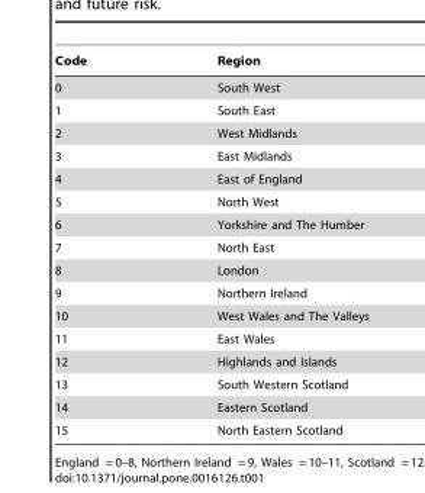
<table><thead><tr><td>Code</td><td>Region</td></tr></thead><tbody><tr><td>0</td><td>South West</td></tr><tr><td>1</td><td>South East</td></tr><tr><td>2</td><td>West Midlands</td></tr><tr><td>3</td><td>East Midlands</td></tr><tr><td>4</td><td>East of England</td></tr><tr><td>5</td><td>North West</td></tr><tr><td>6</td><td>Yorkshire and The Humber</td></tr><tr><td>7</td><td>North East</td></tr><tr><td>8</td><td>London</td></tr><tr><td>9</td><td>Northern Ireland</td></tr><tr><td>10</td><td>West Wales and The Valleys</td></tr><tr><td>11</td><td>East Wales</td></tr><tr><td>12</td><td>Highlands and Islands</td></tr><tr><td>13</td><td>South Western Scotland</td></tr><tr><td>14</td><td>Eastern Scotland</td></tr><tr><td>15</td><td>North Eastern Scotland</td></tr></tbody></table>